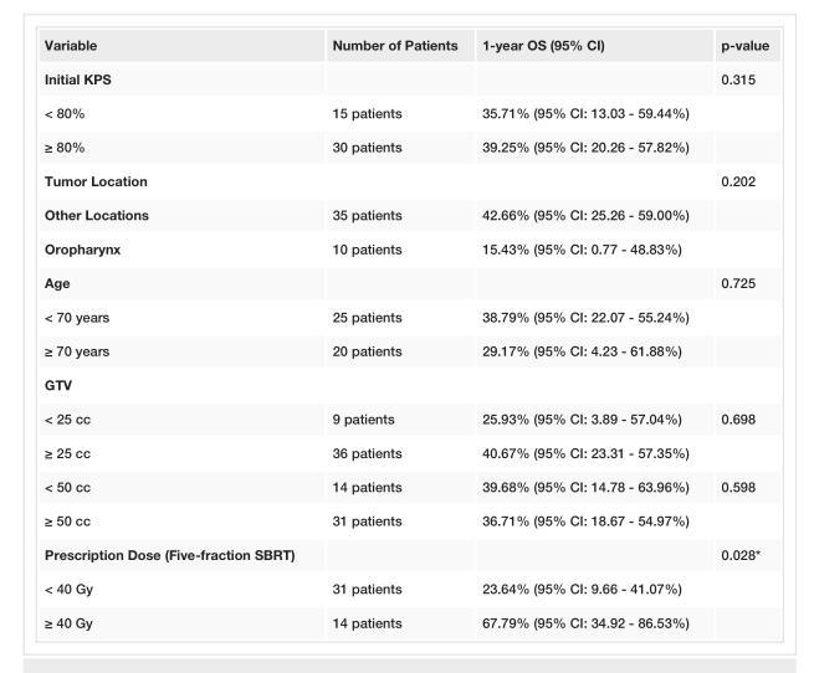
<table><tbody><tr><td>Variable</td><td>Number of Patients</td><td>1-year OS (95% CI)</td><td>p-value</td></tr><tr><td>Initial KPS</td><td></td><td></td><td>0.315</td></tr><tr><td>&lt; 80%</td><td>15 patients</td><td>35.71% (95% CI: 13.03 - 59.44%)</td><td></td></tr><tr><td>≥ 80%</td><td>30 patients</td><td>39.25% (95% CI: 20.26 - 57.82%)</td><td></td></tr><tr><td>Tumor Location</td><td></td><td></td><td>0.202</td></tr><tr><td>Other Locations</td><td>35 patients</td><td>42.66% (95% CI: 25.26 - 59.00%)</td><td></td></tr><tr><td>Oropharynx</td><td>10 patients</td><td>15.43% (95% CI: 0.77 - 48.83%)</td><td></td></tr><tr><td>Age</td><td></td><td></td><td>0.725</td></tr><tr><td>&lt; 70 years</td><td>25 patients</td><td>38.79% (95% CI: 22.07 - 55.24%)</td><td></td></tr><tr><td>≥ 70 years</td><td>20 patients</td><td>29.17% (95% CI: 4.23 - 61.88%)</td><td></td></tr><tr><td colspan="4">GTV</td></tr><tr><td>&lt; 25 cc</td><td>9 patients</td><td>25.93% (95% CI: 3.89 - 57.04%)</td><td>0.698</td></tr><tr><td>≥ 25 cc</td><td>36 patients</td><td>40.67% (95% CI: 23.31 - 57.35%)</td><td></td></tr><tr><td>&lt; 50 cc</td><td>14 patients</td><td>39.68% (95% CI: 14.78 - 63.96%)</td><td>0.598</td></tr><tr><td>≥ 50 cc</td><td>31 patients</td><td>36.71% (95% CI: 18.67 - 54.97%)</td><td></td></tr><tr><td>Prescription Dose (Five-fraction SBRT)</td><td></td><td></td><td>0.028*</td></tr><tr><td>&lt; 40 Gy</td><td>31 patients</td><td>23.64% (95% CI: 9.66 - 41.07%)</td><td></td></tr><tr><td>≥ 40 Gy</td><td>14 patients</td><td>67.79% (95% CI: 34.92 - 86.53%)</td><td></td></tr></tbody></table>